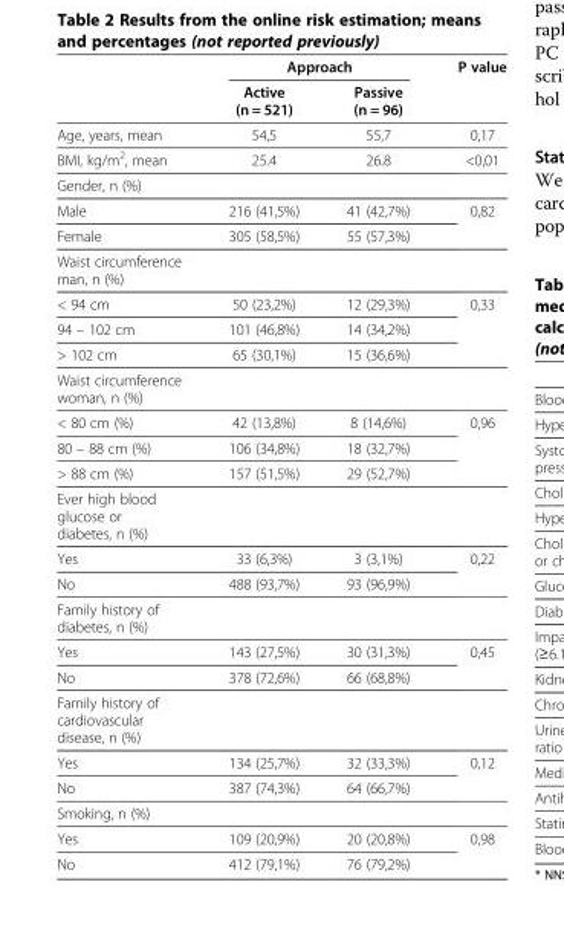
<table><thead><tr><td rowspan="2"></td><td colspan="2">Approach</td><td rowspan="2">P value</td></tr><tr><td>Active (n = 521)</td><td>Passive (n = 96)</td></tr></thead><tbody><tr><td>Age, years, mean</td><td>54,5</td><td>55,7</td><td>0,17</td></tr><tr><td>BMI, kg/m<sup>2</sup>, mean</td><td>25.4</td><td>26.8</td><td>&lt;0,01</td></tr><tr><td colspan="4">Gender, n (%)</td></tr><tr><td>Male</td><td>216 (41,5%)</td><td>41 (42,7%)</td><td>0,82</td></tr><tr><td>Female</td><td>305 (58,5%)</td><td>55 (57,3%)</td><td></td></tr><tr><td colspan="4">Waist circumference man, n (%)</td></tr><tr><td>&lt; 94 cm</td><td>50 (23,2%)</td><td>12 (29,3%)</td><td>0,33</td></tr><tr><td>94 – 102 cm</td><td>101 (46,8%)</td><td>14 (34,2%)</td><td></td></tr><tr><td>&gt; 102 cm</td><td>65 (30,1%)</td><td>15 (36,6%)</td><td></td></tr><tr><td colspan="4">Waist circumference woman, n (%)</td></tr><tr><td>&lt; 80 cm (%)</td><td>42 (13,8%)</td><td>8 (14,6%)</td><td>0,96</td></tr><tr><td>80 – 88 cm (%)</td><td>106 (34,8%)</td><td>18 (32,7%)</td><td></td></tr><tr><td>&gt; 88 cm (%)</td><td>157 (51,5%)</td><td>29 (52,7%)</td><td></td></tr><tr><td colspan="4">Ever high blood glucose or diabetes, n (%)</td></tr><tr><td>Yes</td><td>33 (6,3%)</td><td>3 (3,1%)</td><td>0,22</td></tr><tr><td>No</td><td>488 (93,7%)</td><td>93 (96,9%)</td><td></td></tr><tr><td colspan="4">Family history of diabetes, n (%)</td></tr><tr><td>Yes</td><td>143 (27,5%)</td><td>30 (31,3%)</td><td>0,45</td></tr><tr><td>No</td><td>378 (72,6%)</td><td>66 (68,8%)</td><td></td></tr><tr><td colspan="4">Family history of cardiovascular disease, n (%)</td></tr><tr><td>Yes</td><td>134 (25,7%)</td><td>32 (33,3%)</td><td>0,12</td></tr><tr><td>No</td><td>387 (74,3%)</td><td>64 (66,7%)</td><td></td></tr><tr><td colspan="4">Smoking, n (%)</td></tr><tr><td>Yes</td><td>109 (20,9%)</td><td>20 (20,8%)</td><td>0,98</td></tr><tr><td>No</td><td>412 (79,1%)</td><td>76 (79,2%)</td><td></td></tr></tbody></table>